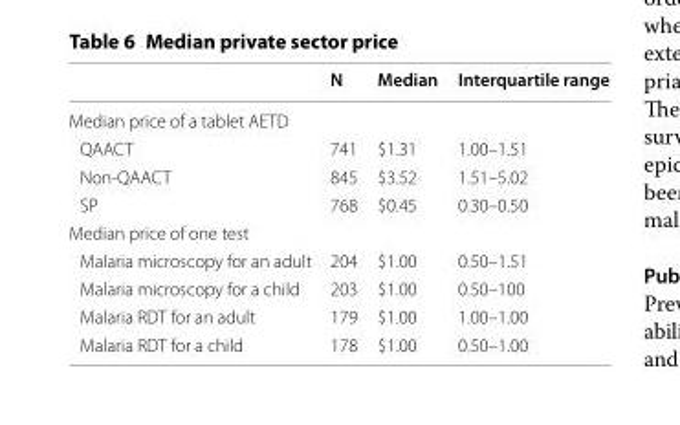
<table><thead><tr><td></td><td>N</td><td>Median</td><td>Interquartile range</td></tr></thead><tbody><tr><td colspan="4">Median price of a tablet AETD</td></tr><tr><td>QAACT</td><td>741</td><td>$1.31</td><td>1.00–1.51</td></tr><tr><td>Non-QAACT</td><td>845</td><td>$3.52</td><td>1.51–5.02</td></tr><tr><td>SP</td><td>768</td><td>$0.45</td><td>0.30–0.50</td></tr><tr><td colspan="4">Median price of one test</td></tr><tr><td>Malaria microscopy for an adult</td><td>204</td><td>$1.00</td><td>0.50–1.51</td></tr><tr><td>Malaria microscopy for a child</td><td>203</td><td>$1.00</td><td>0.50–100</td></tr><tr><td>Malaria RDT for an adult</td><td>179</td><td>$1.00</td><td>1.00–1.00</td></tr><tr><td>Malaria RDT for a child</td><td>178</td><td>$1.00</td><td>0.50–1.00</td></tr></tbody></table>